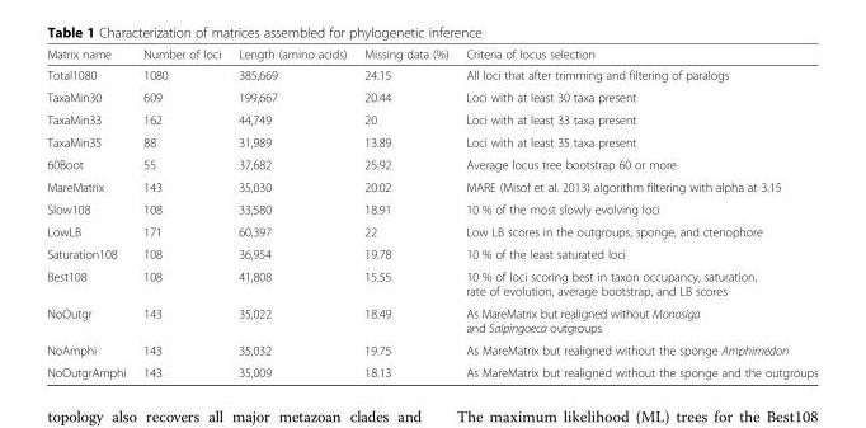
<table><thead><tr><td>Matrix name</td><td>Number of loci</td><td>Length (amino acids)</td><td>Missing data (%)</td><td>Criteria of locus selection</td></tr></thead><tbody><tr><td>Total1080</td><td>1080</td><td>385,669</td><td>24.15</td><td>All loci that after trimming and filtering of paralogs</td></tr><tr><td>TaxaMin30</td><td>609</td><td>199,667</td><td>20.44</td><td>Loci with at least 30 taxa present</td></tr><tr><td>TaxaMin33</td><td>162</td><td>44,749</td><td>20</td><td>Loci with at least 33 taxa present</td></tr><tr><td>TaxaMin35</td><td>88</td><td>31,989</td><td>13.89</td><td>Loci with at least 35 taxa present</td></tr><tr><td>60Boot</td><td>55</td><td>37,682</td><td>25.92</td><td>Average locus tree bootstrap 60 or more</td></tr><tr><td>MareMatrix</td><td>143</td><td>35,030</td><td>20.02</td><td>MARE (Misof et al. 2013) algorithm filtering with alpha at 3.15</td></tr><tr><td>Slow108</td><td>108</td><td>33,580</td><td>18.91</td><td>10 % of the most slowly evolving loci</td></tr><tr><td>LowLB</td><td>171</td><td>60,397</td><td>22</td><td>Low LB scores in the outgroups, sponge, and ctenophore</td></tr><tr><td>Saturation108</td><td>108</td><td>36,954</td><td>19.78</td><td>10 % of the least saturated loci</td></tr><tr><td>Best108</td><td>108</td><td>41,808</td><td>15.55</td><td>10 % of loci scoring best in taxon occupancy, saturation, rate of evolution, average bootstrap, and LB scores</td></tr><tr><td>NoOutgr</td><td>143</td><td>35,022</td><td>18.49</td><td>As MareMatrix but realigned without Monosiga and Salpingoeca outgroups</td></tr><tr><td>NoAmphi</td><td>143</td><td>35,032</td><td>19.75</td><td>As MareMatrix but realigned without the sponge Amphimedon</td></tr><tr><td>NoOutgrAmphi</td><td>143</td><td>35,009</td><td>18.13</td><td>As MareMatrix but realigned without the sponge and the outgroups</td></tr></tbody></table>